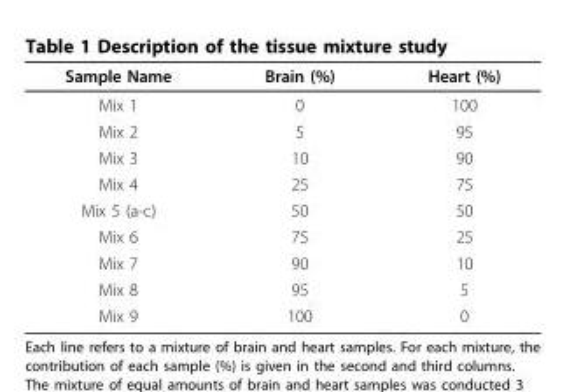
<table><thead><tr><td>Sample Name</td><td>Brain (%)</td><td>Heart (%)</td></tr></thead><tbody><tr><td>Mix 1</td><td>0</td><td>100</td></tr><tr><td>Mix 2</td><td>5</td><td>95</td></tr><tr><td>Mix 3</td><td>10</td><td>90</td></tr><tr><td>Mix 4</td><td>25</td><td>75</td></tr><tr><td>Mix 5 (a-c)</td><td>50</td><td>50</td></tr><tr><td>Mix 6</td><td>75</td><td>25</td></tr><tr><td>Mix 7</td><td>90</td><td>10</td></tr><tr><td>Mix 8</td><td>95</td><td>5</td></tr><tr><td>Mix 9</td><td>100</td><td>0</td></tr></tbody></table>